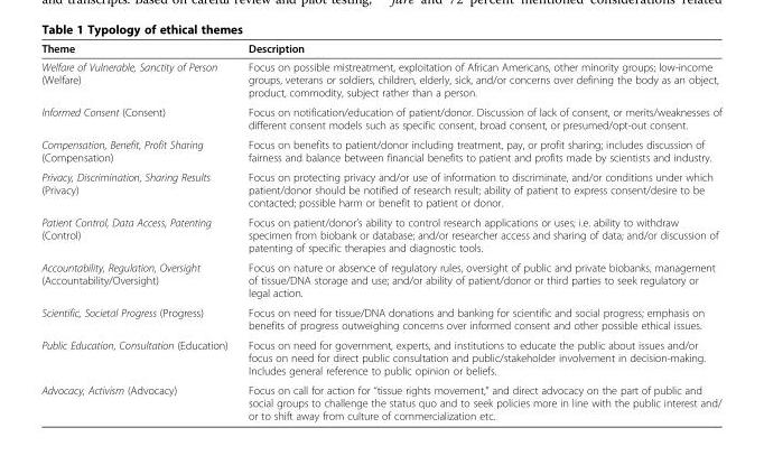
<table><thead><tr><td>Theme</td><td>Description</td></tr></thead><tbody><tr><td>Welfare of Vulnerable, Sanctity of Person (Welfare)</td><td>Focus on possible mistreatment, exploitation of African Americans, other minority groups; low-income groups, veterans or soldiers, children, elderly, sick, and/or concerns over defining the body as an object, product, commodity, subject rather than a person.</td></tr><tr><td>Informed Consent (Consent)</td><td>Focus on notification/education of patient/donor. Discussion of lack of consent, or merits/weaknesses of different consent models such as specific consent, broad consent, or presumed/opt-out consent.</td></tr><tr><td>Compensation, Benefit, Profit Sharing (Compensation)</td><td>Focus on benefits to patient/donor including treatment, pay, or profit sharing; includes discussion of fairness and balance between financial benefits to patient and profits made by scientists and industry.</td></tr><tr><td>Privacy, Discrimination, Sharing Results (Privacy)</td><td>Focus on protecting privacy and/or use of information to discriminate, and/or conditions under which patient/donor should be notified of research result; ability of patient to express consent/desire to be contacted; possible harm or benefit to patient or donor.</td></tr><tr><td>Patient Control, Data Access, Patenting (Control)</td><td>Focus on patient/donor’s ability to control research applications or uses; i.e. ability to withdraw specimen from biobank or database; and/or researcher access and sharing of data; and/or discussion of patenting of specific therapies and diagnostic tools.</td></tr><tr><td>Accountability, Regulation, Oversight (Accountability/Oversight)</td><td>Focus on nature or absence of regulatory rules, oversight of public and private biobanks, management of tissue/DNA storage and use; and/or ability of patient/donor or third parties to seek regulatory or legal action.</td></tr><tr><td>Scientific, Societal Progress (Progress)</td><td>Focus on need for tissue/DNA donations and banking for scientific and social progress; emphasis on benefits of progress outweighing concerns over informed consent and other possible ethical issues.</td></tr><tr><td>Public Education, Consultation (Education)</td><td>Focus on need for government, experts, and institutions to educate the public about issues and/or focus on need for direct public consultation and public/stakeholder involvement in decision-making. Includes general reference to public opinion or beliefs.</td></tr><tr><td>Advocacy, Activism (Advocacy)</td><td>Focus on call for action for “tissue rights movement,” and direct advocacy on the part of public and social groups to challenge the status quo and to seek policies more in line with the public interest and/ or to shift away from culture of commercialization etc.</td></tr></tbody></table>